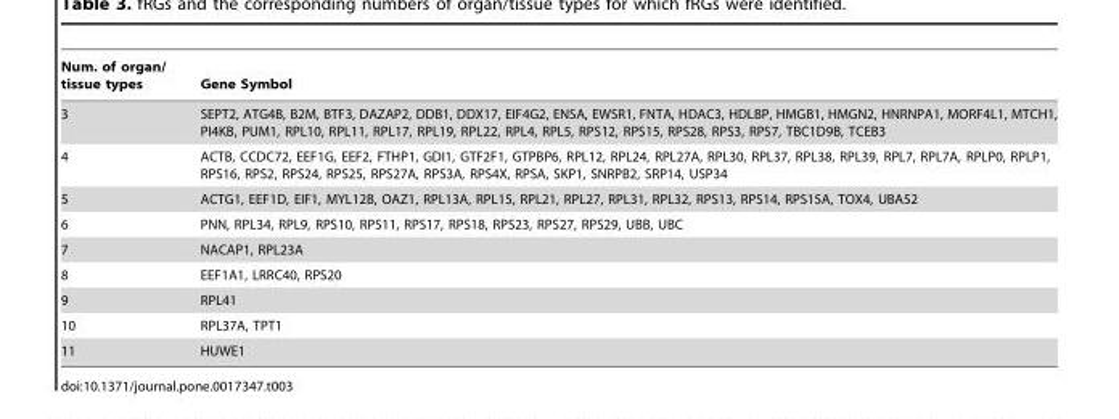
<table><thead><tr><td>Num. of organ/ tissue types</td><td>Gene Symbol</td></tr></thead><tbody><tr><td>3</td><td>SEPT2, ATG4B, B2M, BTF3, DAZAP2, DDB1, DDX17, EIF4G2, ENSA, EWSR1, FNTA, HDAC3, HDLBP, HMGB1, HMGN2, HNRNPA1, MORF4L1, MTCH1, PI4KB, PUM1, RPL10, RPL11, RPL17, RPL19, RPL22, RPL4, RPL5, RPS12, RPS15, RPS28, RPS3, RPS7, TBC1D9B, TCEB3</td></tr><tr><td>4</td><td>ACTB, CCDC72, EEF1G, EEF2, FTHP1, GDI1, GTF2F1, GTPBP6, RPL12, RPL24, RPL27A, RPL30, RPL37, RPL38, RPL39, RPL7, RPL7A, RPLP0, RPLP1, RPS16, RPS2, RPS24, RPS25, RPS27A, RPS3A, RPS4X, RPSA, SKP1, SNRPB2, SRP14, USP34</td></tr><tr><td>5</td><td>ACTG1, EEF1D, EIF1, MYL12B, OAZ1, RPL13A, RPL15, RPL21, RPL27, RPL31, RPL32, RPS13, RPS14, RPS15A, TOX4, UBA52</td></tr><tr><td>6</td><td>PNN, RPL34, RPL9, RPS10, RPS11, RPS17, RPS18, RPS23, RPS27, RPS29, UBB, UBC</td></tr><tr><td>7</td><td>NACAP1, RPL23A</td></tr><tr><td>8</td><td>EEF1A1, LRRC40, RPS20</td></tr><tr><td>9</td><td>RPL41</td></tr><tr><td>10</td><td>RPL37A, TPT1</td></tr><tr><td>11</td><td>HUWE1</td></tr></tbody></table>